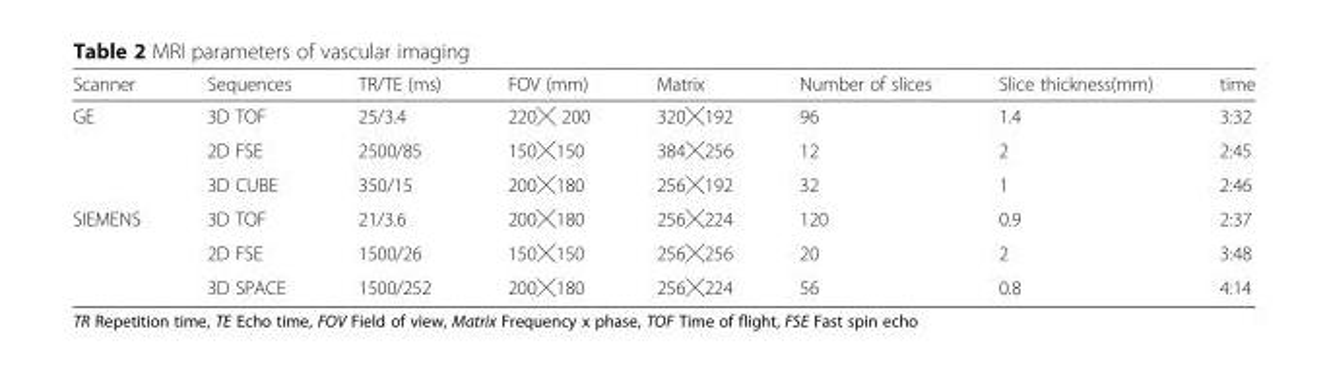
<table><thead><tr><td>Scanner</td><td>Sequences</td><td>TR/TE (ms)</td><td>FOV (mm)</td><td>Matrix</td><td>Number of slices</td><td>Slice thickness(mm)</td><td>time</td></tr></thead><tbody><tr><td rowspan="3">GE</td><td>3D TOF</td><td>25/3.4</td><td>220╳ 200</td><td>320╳192</td><td>96</td><td>1.4</td><td>3:32</td></tr><tr><td>2D FSE</td><td>2500/85</td><td>150╳150</td><td>384╳256</td><td>12</td><td>2</td><td>2:45</td></tr><tr><td>3D CUBE</td><td>350/15</td><td>200╳180</td><td>256╳192</td><td>32</td><td>1</td><td>2:46</td></tr><tr><td rowspan="3">SIEMENS</td><td>3D TOF</td><td>21/3.6</td><td>200╳180</td><td>256╳224</td><td>120</td><td>0.9</td><td>2:37</td></tr><tr><td>2D FSE</td><td>1500/26</td><td>150╳150</td><td>256╳256</td><td>20</td><td>2</td><td>3:48</td></tr><tr><td>3D SPACE</td><td>1500/252</td><td>200╳180</td><td>256╳224</td><td>56</td><td>0.8</td><td>4:14</td></tr></tbody></table>